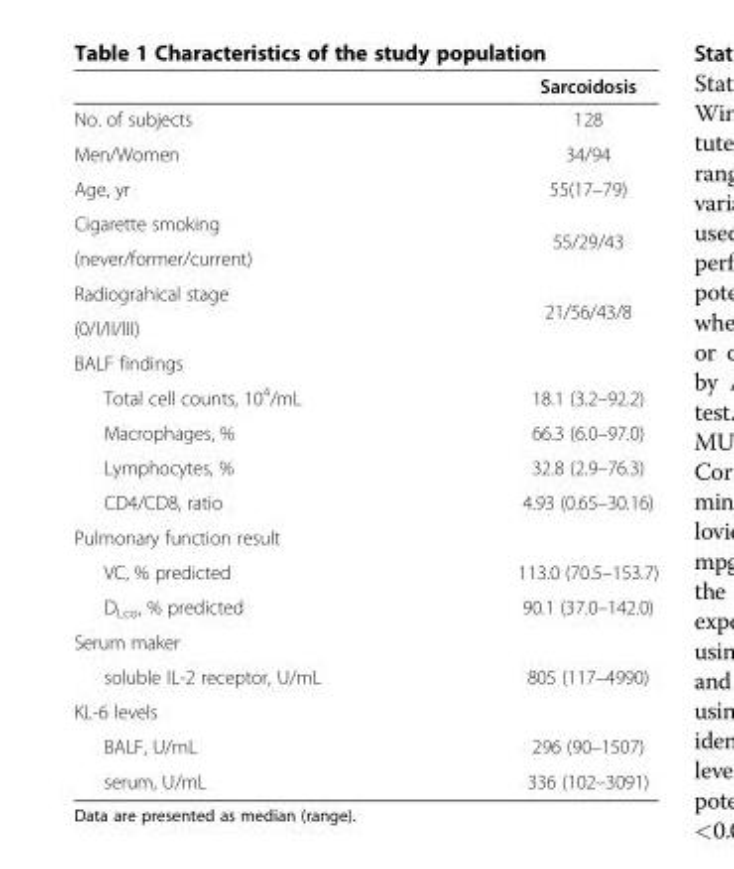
<table><thead><tr><td></td><td>Sarcoidosis</td></tr></thead><tbody><tr><td>No. of subjects</td><td>128</td></tr><tr><td>Men/Women</td><td>34/94</td></tr><tr><td>Age, yr</td><td>55(17–79)</td></tr><tr><td>Cigarette smoking</td><td rowspan="2">55/29/43</td></tr><tr><td>(never/former/current)</td></tr><tr><td>Radiograhical stage</td><td rowspan="2">21/56/43/8</td></tr><tr><td>(0/I/II/III)</td></tr><tr><td colspan="2">BALF findings</td></tr><tr><td>Total cell counts, 10<sup>4</sup>/mL</td><td>18.1 (3.2–92.2)</td></tr><tr><td>Macrophages, %</td><td>66.3 (6.0–97.0)</td></tr><tr><td>Lymphocytes, %</td><td>32.8 (2.9–76.3)</td></tr><tr><td>CD4/CD8, ratio</td><td>4.93 (0.65–30.16)</td></tr><tr><td colspan="2">Pulmonary function result</td></tr><tr><td>VC, % predicted</td><td>113.0 (70.5–153.7)</td></tr><tr><td>D<sub>Lco</sub>, % predicted</td><td>90.1 (37.0–142.0)</td></tr><tr><td colspan="2">Serum maker</td></tr><tr><td>soluble IL-2 receptor, U/mL</td><td>805 (117–4990)</td></tr><tr><td colspan="2">KL-6 levels</td></tr><tr><td>BALF, U/mL</td><td>296 (90–1507)</td></tr><tr><td>serum, U/mL</td><td>336 (102–3091)</td></tr></tbody></table>